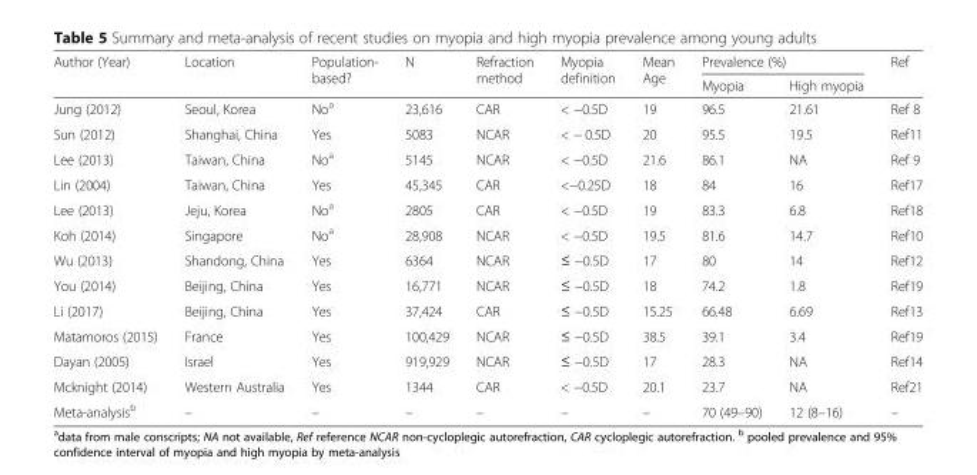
<table><thead><tr><td rowspan="2">Author (Year)</td><td rowspan="2">Location</td><td rowspan="2">Population- based?</td><td rowspan="2">N</td><td rowspan="2">Refraction method</td><td rowspan="2">Myopia definition</td><td rowspan="2">Mean Age</td><td colspan="2">Prevalence (%)</td><td rowspan="2">Ref</td></tr><tr><td>Myopia</td><td>High myopia</td></tr></thead><tbody><tr><td>Jung (2012)</td><td>Seoul, Korea</td><td>No<sup>a</sup></td><td>23,616</td><td>CAR</td><td>&lt; −0.5D</td><td>19</td><td>96.5</td><td>21.61</td><td>Ref 8</td></tr><tr><td>Sun (2012)</td><td>Shanghai, China</td><td>Yes</td><td>5083</td><td>NCAR</td><td>&lt; − 0.5D</td><td>20</td><td>95.5</td><td>19.5</td><td>Ref11</td></tr><tr><td>Lee (2013)</td><td>Taiwan, China</td><td>No<sup>a</sup></td><td>5145</td><td>NCAR</td><td>&lt; −0.5D</td><td>21.6</td><td>86.1</td><td>NA</td><td>Ref 9</td></tr><tr><td>Lin (2004)</td><td>Taiwan, China</td><td>Yes</td><td>45,345</td><td>CAR</td><td>&lt;−0.25D</td><td>18</td><td>84</td><td>16</td><td>Ref17</td></tr><tr><td>Lee (2013)</td><td>Jeju, Korea</td><td>No<sup>a</sup></td><td>2805</td><td>CAR</td><td>&lt; −0.5D</td><td>19</td><td>83.3</td><td>6.8</td><td>Ref18</td></tr><tr><td>Koh (2014)</td><td>Singapore</td><td>No<sup>a</sup></td><td>28,908</td><td>NCAR</td><td>&lt; −0.5D</td><td>19.5</td><td>81.6</td><td>14.7</td><td>Ref10</td></tr><tr><td>Wu (2013)</td><td>Shandong, China</td><td>Yes</td><td>6364</td><td>NCAR</td><td>≤ −0.5D</td><td>17</td><td>80</td><td>14</td><td>Ref12</td></tr><tr><td>You (2014)</td><td>Beijing, China</td><td>Yes</td><td>16,771</td><td>NCAR</td><td>≤ −0.5D</td><td>18</td><td>74.2</td><td>1.8</td><td>Ref19</td></tr><tr><td>Li (2017)</td><td>Beijing, China</td><td>Yes</td><td>37,424</td><td>CAR</td><td>≤ −0.5D</td><td>15.25</td><td>66.48</td><td>6.69</td><td>Ref13</td></tr><tr><td>Matamoros (2015)</td><td>France</td><td>Yes</td><td>100,429</td><td>NCAR</td><td>≤ −0.5D</td><td>38.5</td><td>39.1</td><td>3.4</td><td>Ref19</td></tr><tr><td>Dayan (2005)</td><td>Israel</td><td>Yes</td><td>919,929</td><td>NCAR</td><td>≤ −0.5D</td><td>17</td><td>28.3</td><td>NA</td><td>Ref14</td></tr><tr><td>Mcknight (2014)</td><td>Western Australia</td><td>Yes</td><td>1344</td><td>CAR</td><td>&lt; −0.5D</td><td>20.1</td><td>23.7</td><td>NA</td><td>Ref21</td></tr><tr><td>Meta-analysis<sup>b</sup></td><td>–</td><td>–</td><td>–</td><td>–</td><td>–</td><td>–</td><td>70 (49–90)</td><td>12 (8–16)</td><td>–</td></tr></tbody></table>